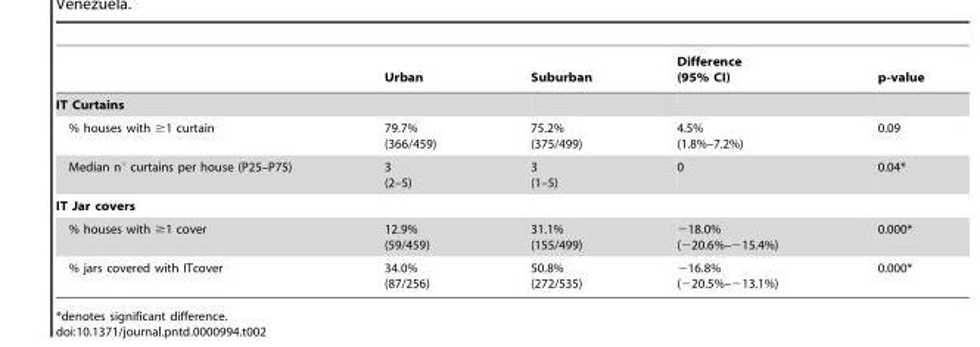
<table><thead><tr><td></td><td>Urban</td><td>Suburban</td><td>Difference (95% CI)</td><td>p-value</td></tr></thead><tbody><tr><td colspan="5">IT Curtains</td></tr><tr><td>% houses with ≥1 curtain</td><td>79.7% (366/459)</td><td>75.2% (375/499)</td><td>4.5% (1.8%–7.2%)</td><td>0.09</td></tr><tr><td>Median n° curtains per house (P25–P75)</td><td>3 (2–5)</td><td>3 (1–5)</td><td>0</td><td>0.04*</td></tr><tr><td colspan="5">IT Jar covers</td></tr><tr><td>% houses with ≥1 cover</td><td>12.9% (59/459)</td><td>31.1% (155/499)</td><td>−18.0% (−20.6%–−15.4%)</td><td>0.000*</td></tr><tr><td>% jars covered with ITcover</td><td>34.0% (87/256)</td><td>50.8% (272/535)</td><td>−16.8% (−20.5%–−13.1%)</td><td>0.000*</td></tr></tbody></table>